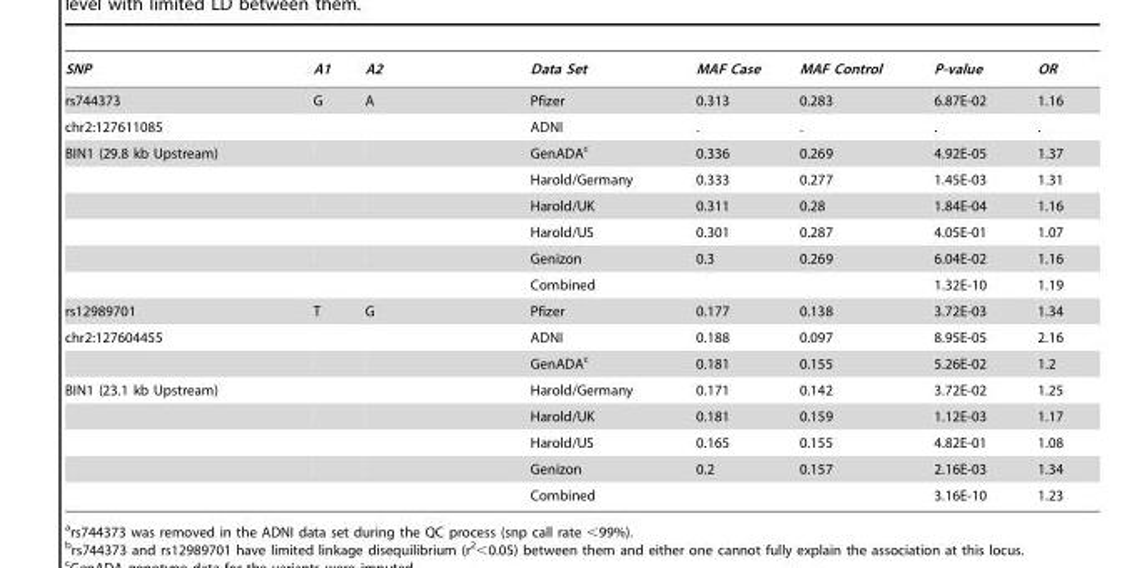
<table><thead><tr><td>SNP</td><td>A1</td><td>A2</td><td>Data Set</td><td>MAF Case</td><td>MAF Control</td><td>P-value</td><td>OR</td></tr></thead><tbody><tr><td>rs744373</td><td>G</td><td>A</td><td>Pfizer</td><td>0.313</td><td>0.283</td><td>6.87E-02</td><td>1.16</td></tr><tr><td>chr2:127611085</td><td></td><td></td><td>ADNI</td><td>.</td><td>.</td><td>.</td><td>.</td></tr><tr><td rowspan="6">BIN1 (29.8 kb Upstream)</td><td></td><td></td><td>GenADA<sup>c</sup></td><td>0.336</td><td>0.269</td><td>4.92E-05</td><td>1.37</td></tr><tr><td></td><td></td><td>Harold/Germany</td><td>0.333</td><td>0.277</td><td>1.45E-03</td><td>1.31</td></tr><tr><td></td><td></td><td>Harold/UK</td><td>0.311</td><td>0.28</td><td>1.84E-04</td><td>1.16</td></tr><tr><td></td><td></td><td>Harold/US</td><td>0.301</td><td>0.287</td><td>4.05E-01</td><td>1.07</td></tr><tr><td></td><td></td><td>Genizon</td><td>0.3</td><td>0.269</td><td>6.04E-02</td><td>1.16</td></tr><tr><td></td><td></td><td>Combined</td><td></td><td></td><td>1.32E-10</td><td>1.19</td></tr><tr><td>rs12989701</td><td>T</td><td>G</td><td>Pfizer</td><td>0.177</td><td>0.138</td><td>3.72E-03</td><td>1.34</td></tr><tr><td rowspan="2">chr2:127604455</td><td></td><td></td><td>ADNI</td><td>0.188</td><td>0.097</td><td>8.95E-05</td><td>2.16</td></tr><tr><td></td><td></td><td>GenADA<sup>c</sup></td><td>0.181</td><td>0.155</td><td>5.26E-02</td><td>1.2</td></tr><tr><td rowspan="5">BIN1 (23.1 kb Upstream)</td><td></td><td></td><td>Harold/Germany</td><td>0.171</td><td>0.142</td><td>3.72E-02</td><td>1.25</td></tr><tr><td></td><td></td><td>Harold/UK</td><td>0.181</td><td>0.159</td><td>1.12E-03</td><td>1.17</td></tr><tr><td></td><td></td><td>Harold/US</td><td>0.165</td><td>0.155</td><td>4.82E-01</td><td>1.08</td></tr><tr><td></td><td></td><td>Genizon</td><td>0.2</td><td>0.157</td><td>2.16E-03</td><td>1.34</td></tr><tr><td></td><td></td><td>Combined</td><td></td><td></td><td>3.16E-10</td><td>1.23</td></tr></tbody></table>